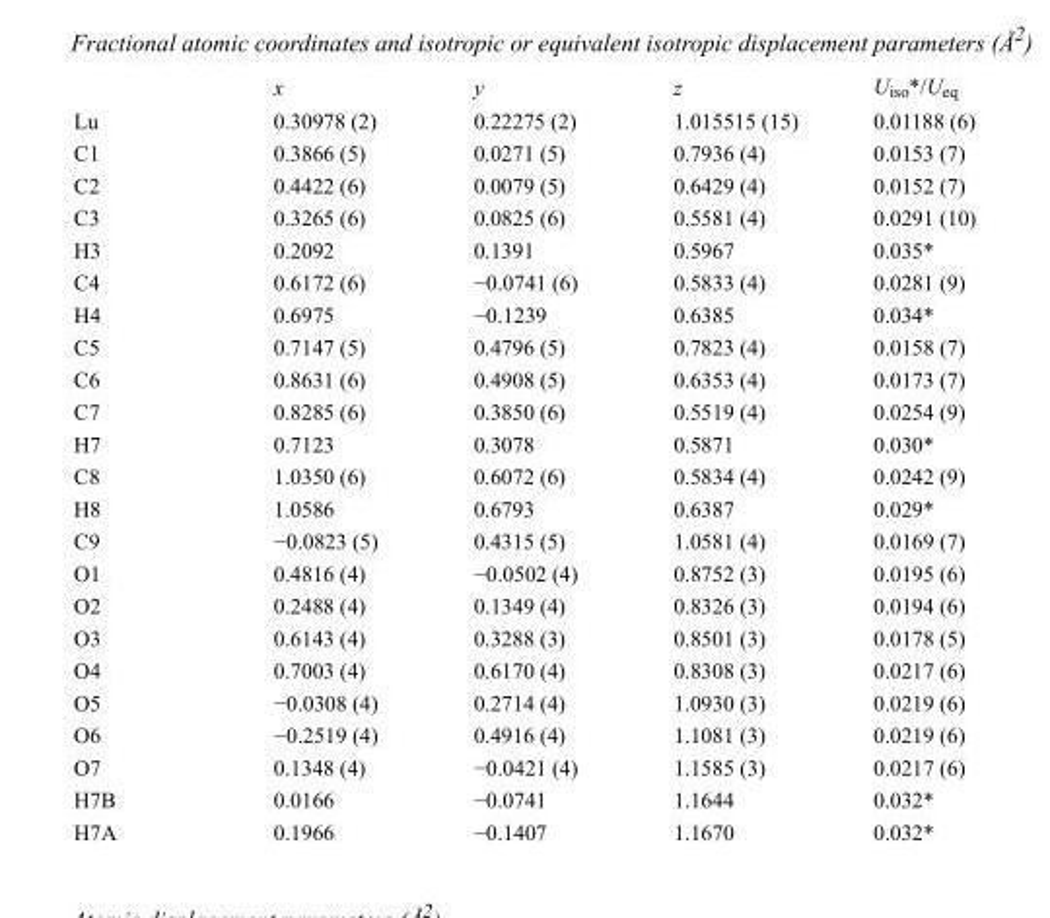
<table><thead><tr><td></td><td>x</td><td>y</td><td>z</td><td>U<sub>iso</sub>*/U<sub>eq</sub></td></tr></thead><tbody><tr><td>Lu</td><td>0.30978 (2)</td><td>0.22275 (2)</td><td>1.015515 (15)</td><td>0.01188 (6)</td></tr><tr><td>C1</td><td>0.3866 (5)</td><td>0.0271 (5)</td><td>0.7936 (4)</td><td>0.0153 (7)</td></tr><tr><td>C2</td><td>0.4422 (6)</td><td>0.0079 (5)</td><td>0.6429 (4)</td><td>0.0152 (7)</td></tr><tr><td>C3</td><td>0.3265 (6)</td><td>0.0825 (6)</td><td>0.5581 (4)</td><td>0.0291 (10)</td></tr><tr><td>H3</td><td>0.2092</td><td>0.1391</td><td>0.5967</td><td>0.035*</td></tr><tr><td>C4</td><td>0.6172 (6)</td><td>−0.0741 (6)</td><td>0.5833 (4)</td><td>0.0281 (9)</td></tr><tr><td>H4</td><td>0.6975</td><td>−0.1239</td><td>0.6385</td><td>0.034*</td></tr><tr><td>C5</td><td>0.7147 (5)</td><td>0.4796 (5)</td><td>0.7823 (4)</td><td>0.0158 (7)</td></tr><tr><td>C6</td><td>0.8631 (6)</td><td>0.4908 (5)</td><td>0.6353 (4)</td><td>0.0173 (7)</td></tr><tr><td>C7</td><td>0.8285 (6)</td><td>0.3850 (6)</td><td>0.5519 (4)</td><td>0.0254 (9)</td></tr><tr><td>H7</td><td>0.7123</td><td>0.3078</td><td>0.5871</td><td>0.030*</td></tr><tr><td>C8</td><td>1.0350 (6)</td><td>0.6072 (6)</td><td>0.5834 (4)</td><td>0.0242 (9)</td></tr><tr><td>H8</td><td>1.0586</td><td>0.6793</td><td>0.6387</td><td>0.029*</td></tr><tr><td>C9</td><td>−0.0823 (5)</td><td>0.4315 (5)</td><td>1.0581 (4)</td><td>0.0169 (7)</td></tr><tr><td>O1</td><td>0.4816 (4)</td><td>−0.0502 (4)</td><td>0.8752 (3)</td><td>0.0195 (6)</td></tr><tr><td>O2</td><td>0.2488 (4)</td><td>0.1349 (4)</td><td>0.8326 (3)</td><td>0.0194 (6)</td></tr><tr><td>O3</td><td>0.6143 (4)</td><td>0.3288 (3)</td><td>0.8501 (3)</td><td>0.0178 (5)</td></tr><tr><td>O4</td><td>0.7003 (4)</td><td>0.6170 (4)</td><td>0.8308 (3)</td><td>0.0217 (6)</td></tr><tr><td>O5</td><td>−0.0308 (4)</td><td>0.2714 (4)</td><td>1.0930 (3)</td><td>0.0219 (6)</td></tr><tr><td>O6</td><td>−0.2519 (4)</td><td>0.4916 (4)</td><td>1.1081 (3)</td><td>0.0219 (6)</td></tr><tr><td>O7</td><td>0.1348 (4)</td><td>−0.0421 (4)</td><td>1.1585 (3)</td><td>0.0217 (6)</td></tr><tr><td>H7B</td><td>0.0166</td><td>−0.0741</td><td>1.1644</td><td>0.032*</td></tr><tr><td>H7A</td><td>0.1966</td><td>−0.1407</td><td>1.1670</td><td>0.032*</td></tr></tbody></table>